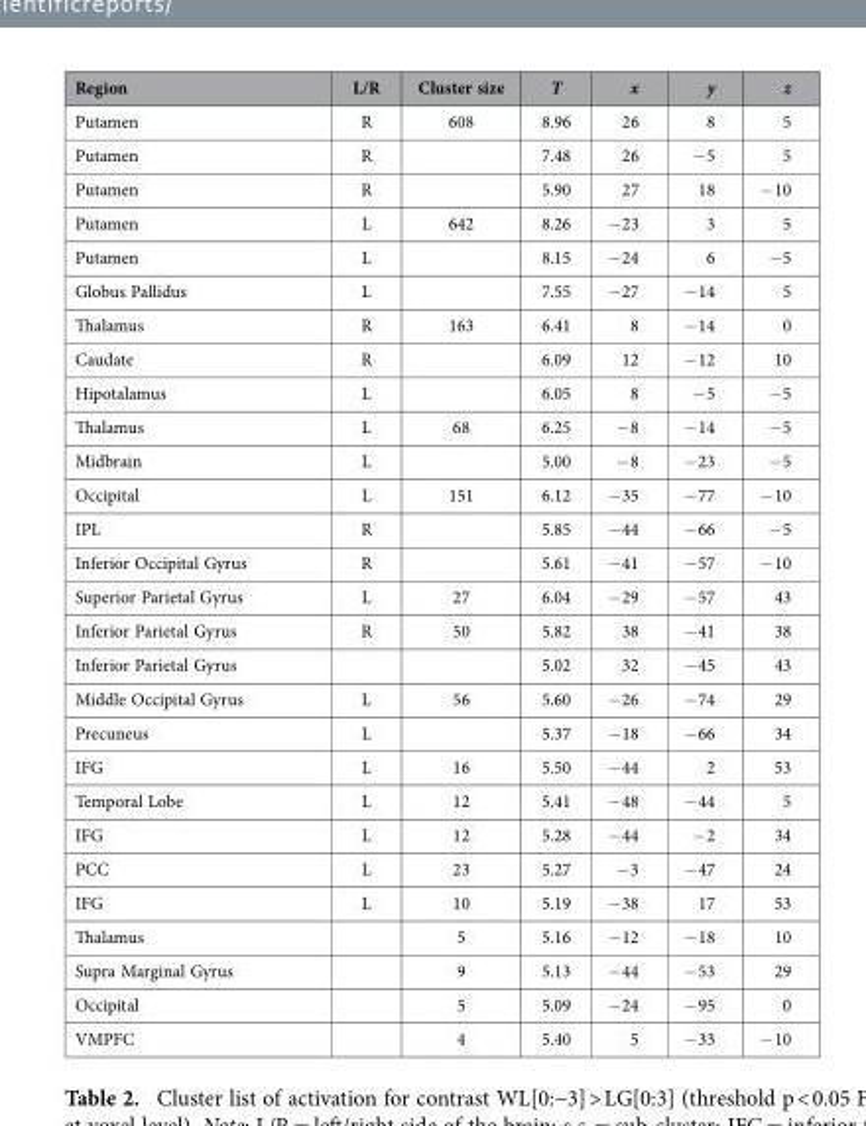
<table><thead><tr><td>Region</td><td>L/R</td><td>Cluster size</td><td>T</td><td>x</td><td>y</td><td>z</td></tr></thead><tbody><tr><td>Putamen</td><td>R</td><td>608</td><td>8.96</td><td>26</td><td>8</td><td>5</td></tr><tr><td>Putamen</td><td>R</td><td></td><td>7.48</td><td>26</td><td>− 5</td><td>5</td></tr><tr><td>Putamen</td><td>R</td><td></td><td>5.90</td><td>27</td><td>18</td><td>− 10</td></tr><tr><td>Putamen</td><td>L</td><td>642</td><td>8.26</td><td>− 23</td><td>3</td><td>5</td></tr><tr><td>Putamen</td><td>L</td><td></td><td>8.15</td><td>− 24</td><td>6</td><td>− 5</td></tr><tr><td>Globus Pallidus</td><td>L</td><td></td><td>7.55</td><td>− 27</td><td>− 14</td><td>5</td></tr><tr><td>Thalamus</td><td>R</td><td>163</td><td>6.41</td><td>8</td><td>− 14</td><td>0</td></tr><tr><td>Caudate</td><td>R</td><td></td><td>6.09</td><td>12</td><td>− 12</td><td>10</td></tr><tr><td>Hipotalamus</td><td>L</td><td></td><td>6.05</td><td>8</td><td>− 5</td><td>− 5</td></tr><tr><td>Thalamus</td><td>L</td><td>68</td><td>6.25</td><td>− 8</td><td>− 14</td><td>− 5</td></tr><tr><td>Midbrain</td><td>L</td><td></td><td>5.00</td><td>− 8</td><td>− 23</td><td>− 5</td></tr><tr><td>Occipital</td><td>L</td><td>151</td><td>6.12</td><td>− 35</td><td>− 77</td><td>− 10</td></tr><tr><td>IPL</td><td>R</td><td></td><td>5.85</td><td>− 44</td><td>− 66</td><td>− 5</td></tr><tr><td>Inferior Occipital Gyrus</td><td>R</td><td></td><td>5.61</td><td>− 41</td><td>− 57</td><td>− 10</td></tr><tr><td>Superior Parietal Gyrus</td><td>L</td><td>27</td><td>6.04</td><td>− 29</td><td>− 57</td><td>43</td></tr><tr><td>Inferior Parietal Gyrus</td><td>R</td><td>50</td><td>5.82</td><td>38</td><td>− 41</td><td>38</td></tr><tr><td>Inferior Parietal Gyrus</td><td></td><td></td><td>5.02</td><td>32</td><td>− 45</td><td>43</td></tr><tr><td>Middle Occipital Gyrus</td><td>L</td><td>56</td><td>5.60</td><td>− 26</td><td>− 74</td><td>29</td></tr><tr><td>Precuneus</td><td>L</td><td></td><td>5.37</td><td>− 18</td><td>− 66</td><td>34</td></tr><tr><td>IFG</td><td>L</td><td>16</td><td>5.50</td><td>− 44</td><td>2</td><td>53</td></tr><tr><td>Temporal Lobe</td><td>L</td><td>12</td><td>5.41</td><td>− 48</td><td>− 44</td><td>5</td></tr><tr><td>IFG</td><td>L</td><td>12</td><td>5.28</td><td>− 44</td><td>− 2</td><td>34</td></tr><tr><td>PCC</td><td>L</td><td>23</td><td>5.27</td><td>− 3</td><td>− 47</td><td>24</td></tr><tr><td>IFG</td><td>L</td><td>10</td><td>5.19</td><td>− 38</td><td>17</td><td>53</td></tr><tr><td>Thalamus</td><td></td><td>5</td><td>5.16</td><td>− 12</td><td>− 18</td><td>10</td></tr><tr><td>Supra Marginal Gyrus</td><td></td><td>9</td><td>5.13</td><td>− 44</td><td>− 53</td><td>29</td></tr><tr><td>Occipital</td><td></td><td>5</td><td>5.09</td><td>− 24</td><td>− 95</td><td>0</td></tr><tr><td>VMPFC</td><td></td><td>4</td><td>5.40</td><td>5</td><td>− 33</td><td>− 10</td></tr></tbody></table>